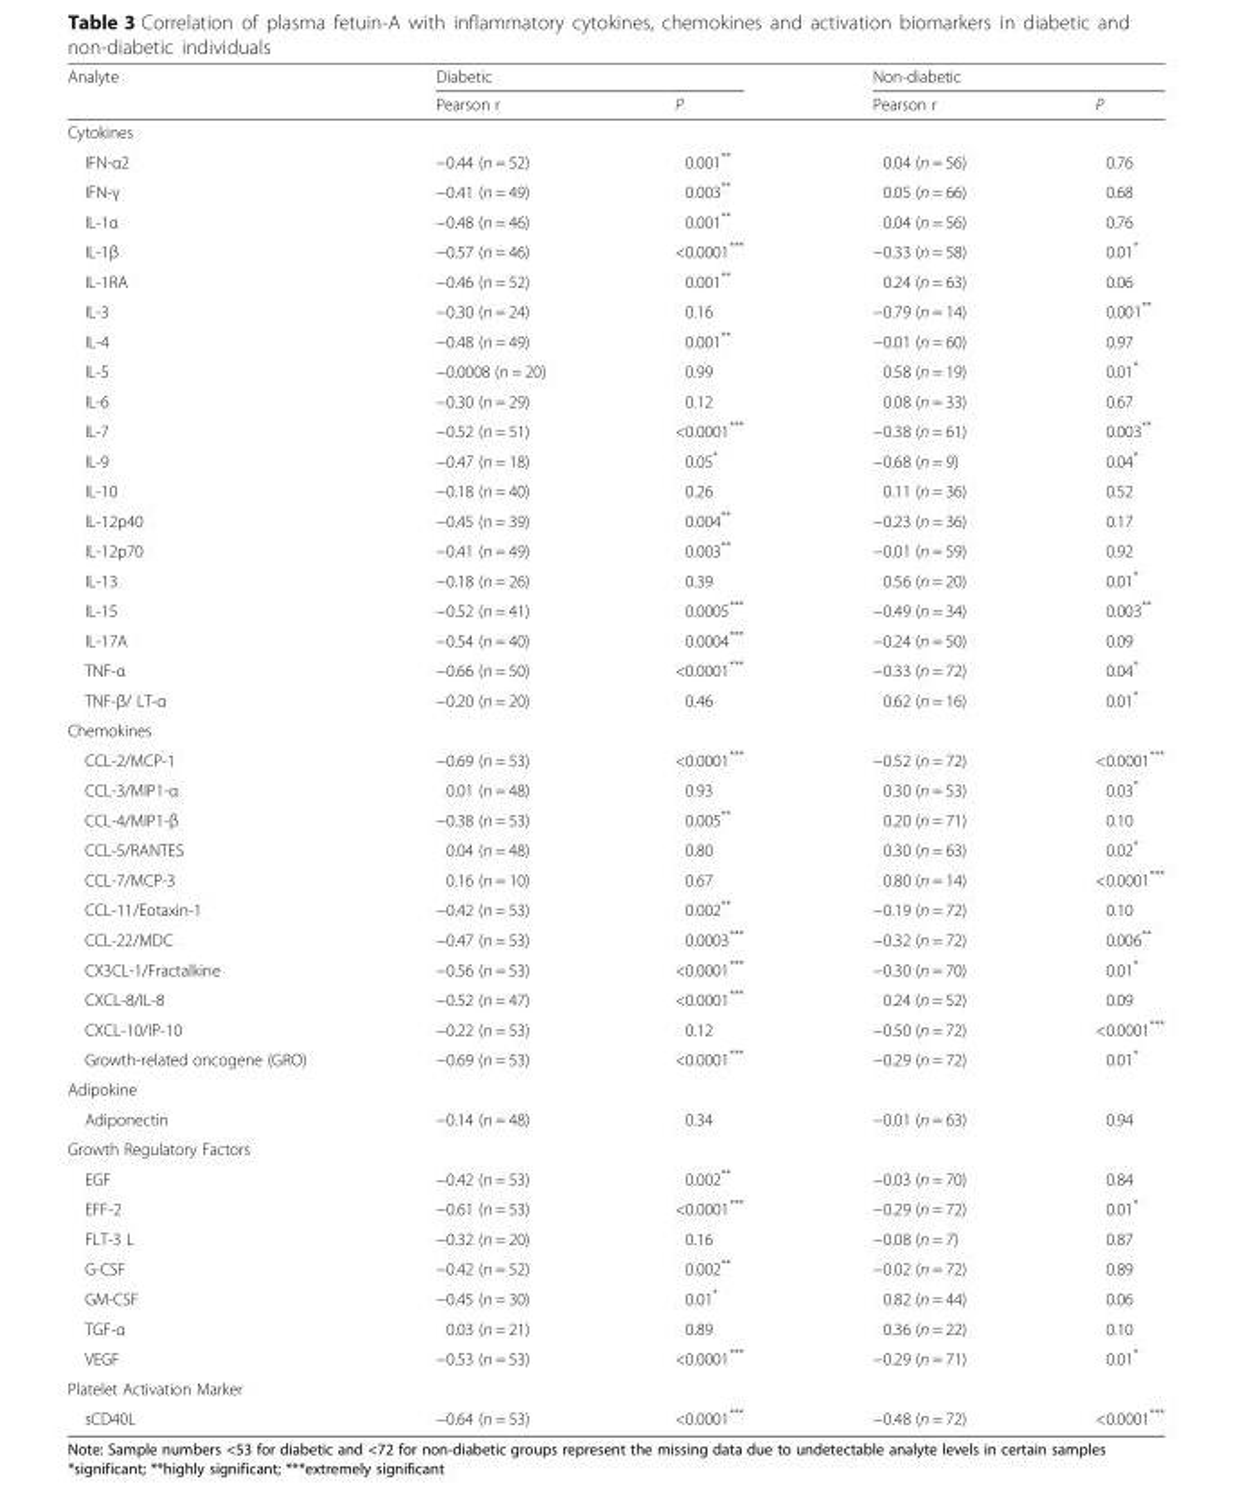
<table><thead><tr><td rowspan="2">Analyte</td><td colspan="2">Diabetic</td><td colspan="2">Non-diabetic</td></tr><tr><td>Pearson r</td><td>P</td><td>Pearson r</td><td>P</td></tr></thead><tbody><tr><td colspan="5">Cytokines</td></tr><tr><td>IFN-α2</td><td>−0.44 (n = 52)</td><td>0.001**</td><td>0.04 (n = 56)</td><td>0.76</td></tr><tr><td>IFN-γ</td><td>−0.41 (n = 49)</td><td>0.003**</td><td>0.05 (n = 66)</td><td>0.68</td></tr><tr><td>IL-1α</td><td>−0.48 (n = 46)</td><td>0.001**</td><td>0.04 (n = 56)</td><td>0.76</td></tr><tr><td>IL-1β</td><td>−0.57 (n = 46)</td><td>&lt;0.0001***</td><td>−0.33 (n = 58)</td><td>0.01*</td></tr><tr><td>IL-1RA</td><td>−0.46 (n = 52)</td><td>0.001**</td><td>0.24 (n = 63)</td><td>0.06</td></tr><tr><td>IL-3</td><td>−0.30 (n = 24)</td><td>0.16</td><td>−0.79 (n = 14)</td><td>0.001**</td></tr><tr><td>IL-4</td><td>−0.48 (n = 49)</td><td>0.001**</td><td>−0.01 (n = 60)</td><td>0.97</td></tr><tr><td>IL-5</td><td>−0.0008 (n = 20)</td><td>0.99</td><td>0.58 (n = 19)</td><td>0.01*</td></tr><tr><td>IL-6</td><td>−0.30 (n = 29)</td><td>0.12</td><td>0.08 (n = 33)</td><td>0.67</td></tr><tr><td>IL-7</td><td>−0.52 (n = 51)</td><td>&lt;0.0001***</td><td>−0.38 (n = 61)</td><td>0.003**</td></tr><tr><td>IL-9</td><td>−0.47 (n = 18)</td><td>0.05*</td><td>−0.68 (n = 9)</td><td>0.04*</td></tr><tr><td>IL-10</td><td>−0.18 (n = 40)</td><td>0.26</td><td>0.11 (n = 36)</td><td>0.52</td></tr><tr><td>IL-12p40</td><td>−0.45 (n = 39)</td><td>0.004**</td><td>−0.23 (n = 36)</td><td>0.17</td></tr><tr><td>IL-12p70</td><td>−0.41 (n = 49)</td><td>0.003**</td><td>−0.01 (n = 59)</td><td>0.92</td></tr><tr><td>IL-13</td><td>−0.18 (n = 26)</td><td>0.39</td><td>0.56 (n = 20)</td><td>0.01*</td></tr><tr><td>IL-15</td><td>−0.52 (n = 41)</td><td>0.0005***</td><td>−0.49 (n = 34)</td><td>0.003**</td></tr><tr><td>IL-17A</td><td>−0.54 (n = 40)</td><td>0.0004***</td><td>−0.24 (n = 50)</td><td>0.09</td></tr><tr><td>TNF-α</td><td>−0.66 (n = 50)</td><td>&lt;0.0001***</td><td>−0.33 (n = 72)</td><td>0.04*</td></tr><tr><td>TNF-β/ LT-α</td><td>−0.20 (n = 20)</td><td>0.46</td><td>0.62 (n = 16)</td><td>0.01*</td></tr><tr><td colspan="5">Chemokines</td></tr><tr><td>CCL-2/MCP-1</td><td>−0.69 (n = 53)</td><td>&lt;0.0001***</td><td>−0.52 (n = 72)</td><td>&lt;0.0001***</td></tr><tr><td>CCL-3/MIP1-α</td><td>0.01 (n = 48)</td><td>0.93</td><td>0.30 (n = 53)</td><td>0.03*</td></tr><tr><td>CCL-4/MIP1-β</td><td>−0.38 (n = 53)</td><td>0.005**</td><td>0.20 (n = 71)</td><td>0.10</td></tr><tr><td>CCL-5/RANTES</td><td>0.04 (n = 48)</td><td>0.80</td><td>0.30 (n = 63)</td><td>0.02*</td></tr><tr><td>CCL-7/MCP-3</td><td>0.16 (n = 10)</td><td>0.67</td><td>0.80 (n = 14)</td><td>&lt;0.0001***</td></tr><tr><td>CCL-11/Eotaxin-1</td><td>−0.42 (n = 53)</td><td>0.002**</td><td>−0.19 (n = 72)</td><td>0.10</td></tr><tr><td>CCL-22/MDC</td><td>−0.47 (n = 53)</td><td>0.0003***</td><td>−0.32 (n = 72)</td><td>0.006**</td></tr><tr><td>CX3CL-1/Fractalkine</td><td>−0.56 (n = 53)</td><td>&lt;0.0001***</td><td>−0.30 (n = 70)</td><td>0.01*</td></tr><tr><td>CXCL-8/IL-8</td><td>−0.52 (n = 47)</td><td>&lt;0.0001***</td><td>0.24 (n = 52)</td><td>0.09</td></tr><tr><td>CXCL-10/IP-10</td><td>−0.22 (n = 53)</td><td>0.12</td><td>−0.50 (n = 72)</td><td>&lt;0.0001***</td></tr><tr><td>Growth-related oncogene (GRO)</td><td>−0.69 (n = 53)</td><td>&lt;0.0001***</td><td>−0.29 (n = 72)</td><td>0.01*</td></tr><tr><td colspan="5">Adipokine</td></tr><tr><td>Adiponectin</td><td>−0.14 (n = 48)</td><td>0.34</td><td>−0.01 (n = 63)</td><td>0.94</td></tr><tr><td colspan="5">Growth Regulatory Factors</td></tr><tr><td>EGF</td><td>−0.42 (n = 53)</td><td>0.002**</td><td>−0.03 (n = 70)</td><td>0.84</td></tr><tr><td>EFF-2</td><td>−0.61 (n = 53)</td><td>&lt;0.0001***</td><td>−0.29 (n = 72)</td><td>0.01*</td></tr><tr><td>FLT-3 L</td><td>−0.32 (n = 20)</td><td>0.16</td><td>−0.08 (n = 7)</td><td>0.87</td></tr><tr><td>G-CSF</td><td>−0.42 (n = 52)</td><td>0.002**</td><td>−0.02 (n = 72)</td><td>0.89</td></tr><tr><td>GM-CSF</td><td>−0.45 (n = 30)</td><td>0.01*</td><td>0.82 (n = 44)</td><td>0.06</td></tr><tr><td>TGF-α</td><td>0.03 (n = 21)</td><td>0.89</td><td>0.36 (n = 22)</td><td>0.10</td></tr><tr><td>VEGF</td><td>−0.53 (n = 53)</td><td>&lt;0.0001***</td><td>−0.29 (n = 71)</td><td>0.01*</td></tr><tr><td colspan="5">Platelet Activation Marker</td></tr><tr><td>sCD40L</td><td>−0.64 (n = 53)</td><td>&lt;0.0001***</td><td>−0.48 (n = 72)</td><td>&lt;0.0001***</td></tr></tbody></table>